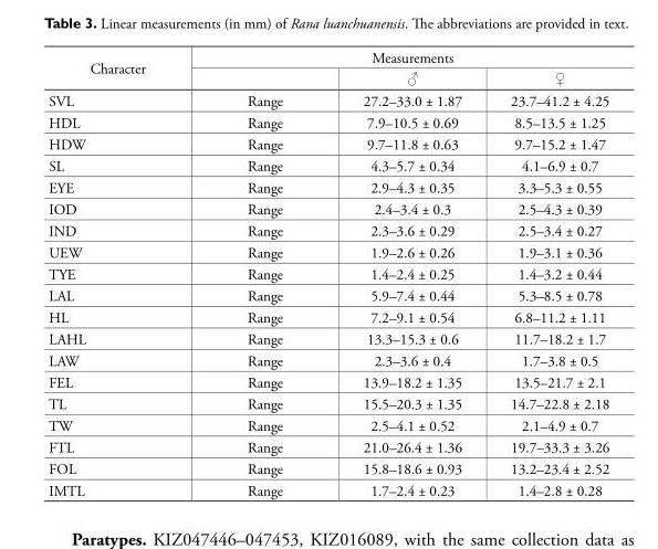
<table><thead><tr><td rowspan="2">Character</td><td colspan="3">Measurements</td></tr><tr><td></td><td>♂</td><td>♀</td></tr></thead><tbody><tr><td>SVL</td><td>Range</td><td>27.2–33.0 ± 1.87</td><td>23.7–41.2 ± 4.25</td></tr><tr><td>HDL</td><td>Range</td><td>7.9–10.5 ± 0.69</td><td>8.5–13.5 ± 1.25</td></tr><tr><td>HDW</td><td>Range</td><td>9.7–11.8 ± 0.63</td><td>9.7–15.2 ± 1.47</td></tr><tr><td>SL</td><td>Range</td><td>4.3–5.7 ± 0.34</td><td>4.1–6.9 ± 0.7</td></tr><tr><td>EYE</td><td>Range</td><td>2.9–4.3 ± 0.35</td><td>3.3–5.3 ± 0.55</td></tr><tr><td>IOD</td><td>Range</td><td>2.4–3.4 ± 0.3</td><td>2.5–4.3 ± 0.39</td></tr><tr><td>IND</td><td>Range</td><td>2.3–3.6 ± 0.29</td><td>2.5–3.4 ± 0.27</td></tr><tr><td>UEW</td><td>Range</td><td>1.9–2.6 ± 0.26</td><td>1.9–3.1 ± 0.36</td></tr><tr><td>TYE</td><td>Range</td><td>1.4–2.4 ± 0.25</td><td>1.4–3.2 ± 0.44</td></tr><tr><td>LAL</td><td>Range</td><td>5.9–7.4 ± 0.44</td><td>5.3–8.5 ± 0.78</td></tr><tr><td>HL</td><td>Range</td><td>7.2–9.1 ± 0.54</td><td>6.8–11.2 ± 1.11</td></tr><tr><td>LAHL</td><td>Range</td><td>13.3–15.3 ± 0.6</td><td>11.7–18.2 ± 1.7</td></tr><tr><td>LAW</td><td>Range</td><td>2.3–3.6 ± 0.4</td><td>1.7–3.8 ± 0.5</td></tr><tr><td>FEL</td><td>Range</td><td>13.9–18.2 ± 1.35</td><td>13.5–21.7 ± 2.1</td></tr><tr><td>TL</td><td>Range</td><td>15.5–20.3 ± 1.35</td><td>14.7–22.8 ± 2.18</td></tr><tr><td>TW</td><td>Range</td><td>2.5–4.1 ± 0.52</td><td>2.1–4.9 ± 0.7</td></tr><tr><td>FTL</td><td>Range</td><td>21.0–26.4 ± 1.36</td><td>19.7–33.3 ± 3.26</td></tr><tr><td>FOL</td><td>Range</td><td>15.8–18.6 ± 0.93</td><td>13.2–23.4 ± 2.52</td></tr><tr><td>IMTL</td><td>Range</td><td>1.7–2.4 ± 0.23</td><td>1.4–2.8 ± 0.28</td></tr></tbody></table>